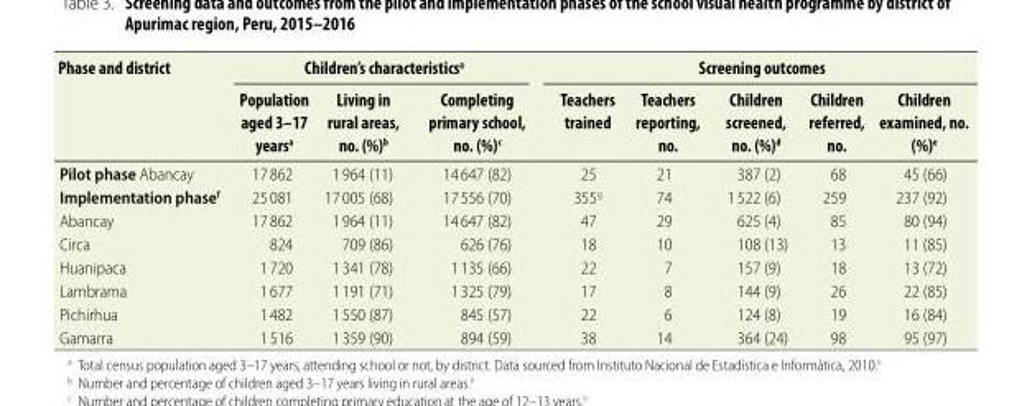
<table><thead><tr><td rowspan="2">Phase and district</td><td colspan="3">Children’s characteristics<sup>a</sup></td><td colspan="5">Screening outcomes</td></tr><tr><td>Population aged 3–17 years<sup>a</sup></td><td>Living in rural areas, no. (%)<sup>b</sup></td><td>Completing primary school, no. (%)<sup>c</sup></td><td>Teachers trained</td><td>Teachers reporting, no.</td><td>Children screened, no. (%)<sup>d</sup></td><td>Children referred, no.</td><td>Children examined, no. (%)<sup>e</sup></td></tr></thead><tbody><tr><td>Pilot phase Abancay</td><td>17 862</td><td>1 964 (11)</td><td>14 647 (82)</td><td>25</td><td>21</td><td>387 (2)</td><td>68</td><td>45 (66)</td></tr><tr><td>Implementation phase<sup>f</sup></td><td>25 081</td><td>17 005 (68)</td><td>17 556 (70)</td><td>355<sup>g</sup></td><td>74</td><td>1 522 (6)</td><td>259</td><td>237 (92)</td></tr><tr><td>Abancay</td><td>17 862</td><td>1 964 (11)</td><td>14 647 (82)</td><td>47</td><td>29</td><td>625 (4)</td><td>85</td><td>80 (94)</td></tr><tr><td>Circa</td><td>824</td><td>709 (86)</td><td>626 (76)</td><td>18</td><td>10</td><td>108 (13)</td><td>13</td><td>11 (85)</td></tr><tr><td>Huanipaca</td><td>1 720</td><td>1 341 (78)</td><td>1 135 (66)</td><td>22</td><td>7</td><td>157 (9)</td><td>18</td><td>13 (72)</td></tr><tr><td>Lambrama</td><td>1 677</td><td>1 191 (71)</td><td>1 325 (79)</td><td>17</td><td>8</td><td>144 (9)</td><td>26</td><td>22 (85)</td></tr><tr><td>Pichirhua</td><td>1 482</td><td>1 550 (87)</td><td>845 (57)</td><td>22</td><td>6</td><td>124 (8)</td><td>19</td><td>16 (84)</td></tr><tr><td>Gamarra</td><td>1 516</td><td>1 359 (90)</td><td>894 (59)</td><td>38</td><td>14</td><td>364 (24)</td><td>98</td><td>95 (97)</td></tr></tbody></table>